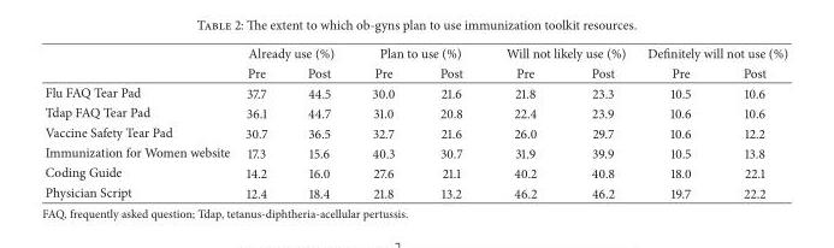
<table><thead><tr><td rowspan="2"></td><td colspan="2">Already use (%)</td><td colspan="2">Plan to use (%)</td><td colspan="2">Will not likely use (%)</td><td colspan="2">Definitely will not use (%)</td></tr><tr><td>Pre</td><td>Post</td><td>Pre</td><td>Post</td><td>Pre</td><td>Post</td><td>Pre</td><td>Post</td></tr></thead><tbody><tr><td>Flu FAQ Tear Pad</td><td>37.7</td><td>44.5</td><td>30.0</td><td>21.6</td><td>21.8</td><td>23.3</td><td>10.5</td><td>10.6</td></tr><tr><td>Tdap FAQ Tear Pad</td><td>36.1</td><td>44.7</td><td>31.0</td><td>20.8</td><td>22.4</td><td>23.9</td><td>10.6</td><td>10.6</td></tr><tr><td>Vaccine Safety Tear Pad</td><td>30.7</td><td>36.5</td><td>32.7</td><td>21.6</td><td>26.0</td><td>29.7</td><td>10.6</td><td>12.2</td></tr><tr><td>Immunization for Women website</td><td>17.3</td><td>15.6</td><td>40.3</td><td>30.7</td><td>31.9</td><td>39.9</td><td>10.5</td><td>13.8</td></tr><tr><td>Coding Guide</td><td>14.2</td><td>16.0</td><td>27.6</td><td>21.1</td><td>40.2</td><td>40.8</td><td>18.0</td><td>22.1</td></tr><tr><td>Physician Script</td><td>12.4</td><td>18.4</td><td>21.8</td><td>13.2</td><td>46.2</td><td>46.2</td><td>19.7</td><td>22.2</td></tr></tbody></table>